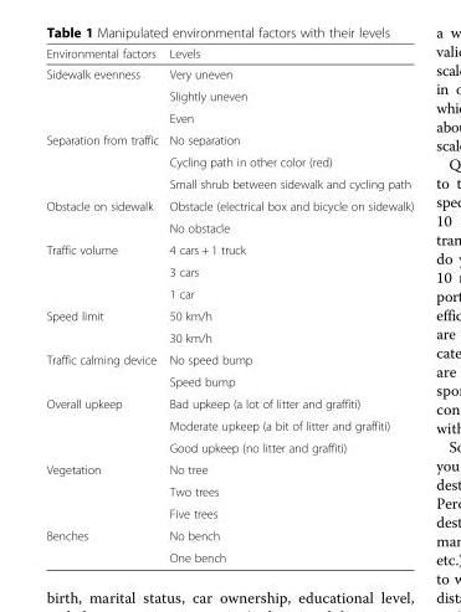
<table><thead><tr><td>Environmental factors</td><td>Levels</td></tr></thead><tbody><tr><td rowspan="3">Sidewalk evenness</td><td>Very uneven</td></tr><tr><td>Slightly uneven</td></tr><tr><td>Even</td></tr><tr><td rowspan="3">Separation from traffic</td><td>No separation</td></tr><tr><td>Cycling path in other color (red)</td></tr><tr><td>Small shrub between sidewalk and cycling path</td></tr><tr><td rowspan="2">Obstacle on sidewalk</td><td>Obstacle (electrical box and bicycle on sidewalk)</td></tr><tr><td>No obstacle</td></tr><tr><td rowspan="3">Traffic volume</td><td>4 cars + 1 truck</td></tr><tr><td>3 cars</td></tr><tr><td>1 car</td></tr><tr><td rowspan="2">Speed limit</td><td>50 km/h</td></tr><tr><td>30 km/h</td></tr><tr><td rowspan="2">Traffic calming device</td><td>No speed bump</td></tr><tr><td>Speed bump</td></tr><tr><td rowspan="3">Overall upkeep</td><td>Bad upkeep (a lot of litter and graffiti)</td></tr><tr><td>Moderate upkeep (a bit of litter and graffiti)</td></tr><tr><td>Good upkeep (no litter and graffiti)</td></tr><tr><td rowspan="3">Vegetation</td><td>No tree</td></tr><tr><td>Two trees</td></tr><tr><td>Five trees</td></tr><tr><td rowspan="2">Benches</td><td>No bench</td></tr><tr><td>One bench</td></tr></tbody></table>